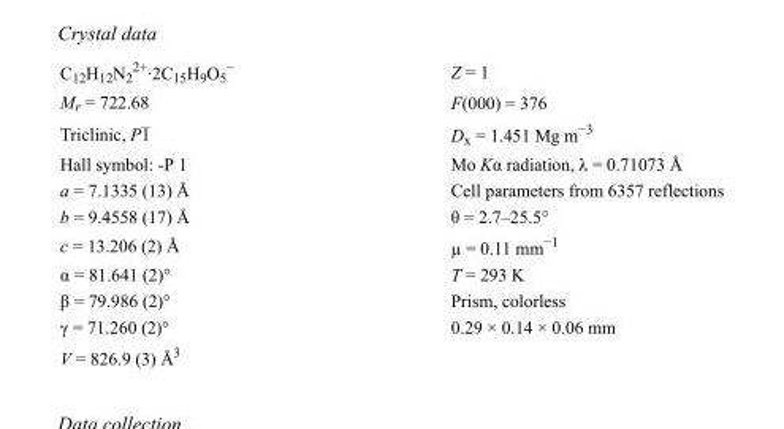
<table><tbody><tr><td>C<sub>12</sub>H<sub>12</sub>N<sub>2</sub> <sup>2+</sup>·2C<sub>15</sub>H<sub>9</sub>O<sub>5</sub> <sup>−</sup></td><td>Z = 1</td></tr><tr><td>M<sub>r</sub> = 722.68</td><td>F(000) = 376</td></tr><tr><td>Triclinic, P1</td><td>D<sub>x</sub> = 1.451 Mg m<sup>−3</sup></td></tr><tr><td>Hall symbol: -P 1</td><td>Mo Kα radiation, λ = 0.71073 Å</td></tr><tr><td>a = 7.1335 (13) Å</td><td>Cell parameters from 6357 reflections</td></tr><tr><td>b = 9.4558 (17) Å</td><td>θ = 2.7–25.5°</td></tr><tr><td>c = 13.206 (2) Å</td><td>µ = 0.11 mm<sup>−1</sup></td></tr><tr><td>α = 81.641 (2)°</td><td>T = 293 K</td></tr><tr><td>β = 79.986 (2)°</td><td>Prism, colorless</td></tr><tr><td>γ = 71.260 (2)°</td><td>0.29 × 0.14 × 0.06 mm</td></tr><tr><td>V = 826.9 (3) Å<sup>3</sup></td><td></td></tr></tbody></table>